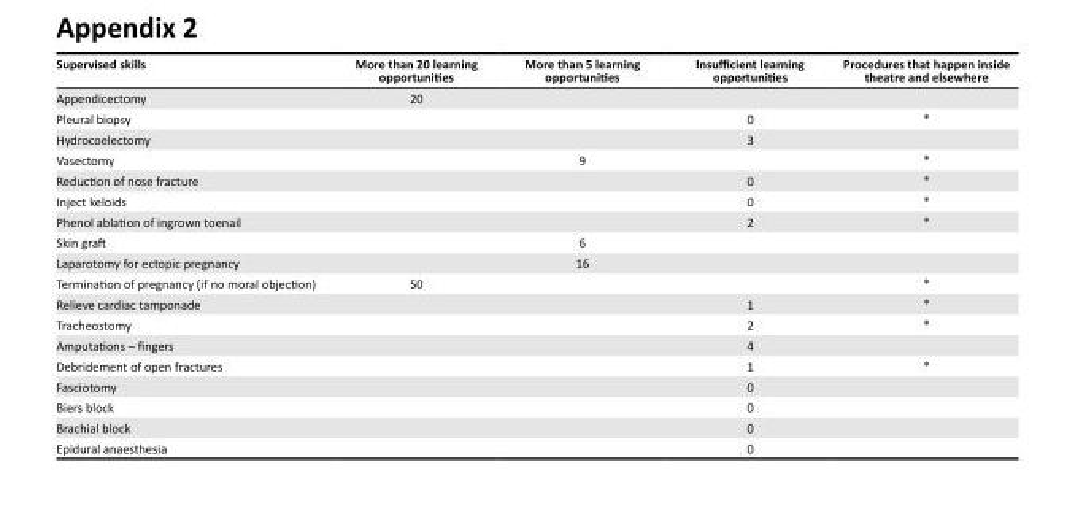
<table><thead><tr><td>Supervised skills</td><td>More than 20 learning opportunities</td><td>More than 5 learning opportunities</td><td>Insufficient learning opportunities</td><td>Procedures that happen inside theatre and elsewhere</td></tr></thead><tbody><tr><td>Appendicectomy</td><td>20</td><td></td><td></td><td></td></tr><tr><td>Pleural biopsy</td><td></td><td></td><td>0</td><td>*</td></tr><tr><td>Hydrocoelectomy</td><td></td><td></td><td>3</td><td></td></tr><tr><td>Vasectomy</td><td></td><td>9</td><td></td><td>*</td></tr><tr><td>Reduction of nose fracture</td><td></td><td></td><td>0</td><td>*</td></tr><tr><td>Inject keloids</td><td></td><td></td><td>0</td><td>*</td></tr><tr><td>Phenol ablation of ingrown toenail</td><td></td><td></td><td>2</td><td>*</td></tr><tr><td>Skin graft</td><td></td><td>6</td><td></td><td></td></tr><tr><td>Laparotomy for ectopic pregnancy</td><td></td><td>16</td><td></td><td></td></tr><tr><td>Termination of pregnancy (if no moral objection)</td><td>50</td><td></td><td></td><td>*</td></tr><tr><td>Relieve cardiac tamponade</td><td></td><td></td><td>1</td><td>*</td></tr><tr><td>Tracheostomy</td><td></td><td></td><td>2</td><td>*</td></tr><tr><td>Amputations – fingers</td><td></td><td></td><td>4</td><td></td></tr><tr><td>Debridement of open fractures</td><td></td><td></td><td>1</td><td>*</td></tr><tr><td>Fasciotomy</td><td></td><td></td><td>0</td><td></td></tr><tr><td>Biers block</td><td></td><td></td><td>0</td><td></td></tr><tr><td>Brachial block</td><td></td><td></td><td>0</td><td></td></tr><tr><td>Epidural anaesthesia</td><td></td><td></td><td>0</td><td></td></tr></tbody></table>